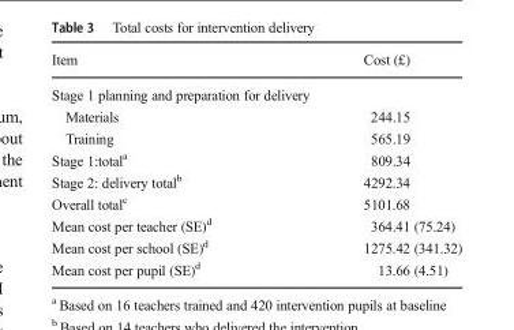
<table><thead><tr><td>Item</td><td>Cost (£)</td></tr></thead><tbody><tr><td colspan="2">Stage 1 planning and preparation for delivery</td></tr><tr><td>Materials</td><td>244.15</td></tr><tr><td>Training</td><td>565.19</td></tr><tr><td>Stage 1:total<sup>a</sup></td><td>809.34</td></tr><tr><td>Stage 2: delivery total<sup>b</sup></td><td>4292.34</td></tr><tr><td>Overall total<sup>c</sup></td><td>5101.68</td></tr><tr><td>Mean cost per teacher (SE)<sup>d</sup></td><td>364.41 (75.24)</td></tr><tr><td>Mean cost per school (SE)<sup>d</sup></td><td>1275.42 (341.32)</td></tr><tr><td>Mean cost per pupil (SE)<sup>d</sup></td><td>13.66 (4.51)</td></tr></tbody></table>